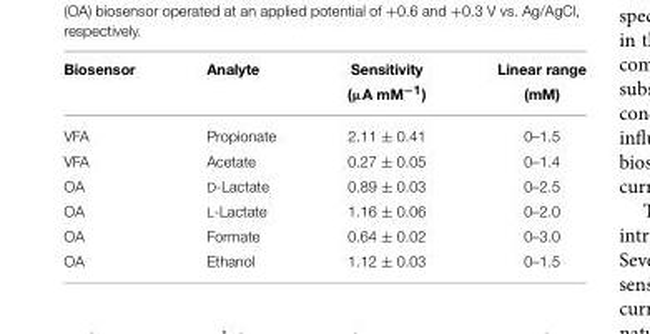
<table><thead><tr><td rowspan="2">Biosensor</td><td rowspan="2">Analyte</td><td rowspan="2">Sensitivity (µA mM<sup>−1</sup>)</td><td rowspan="2">Linear range (mM)</td></tr><tr></tr></thead><tbody><tr><td>VFA</td><td>Propionate</td><td>2.11 ± 0.41</td><td>0–1.5</td></tr><tr><td>VFA</td><td>Acetate</td><td>0.27 ± 0.05</td><td>0–1.4</td></tr><tr><td>OA</td><td>D-Lactate</td><td>0.89 ± 0.03</td><td>0–2.5</td></tr><tr><td>OA</td><td>L-Lactate</td><td>1.16 ± 0.06</td><td>0–2.0</td></tr><tr><td>OA</td><td>Formate</td><td>0.64 ± 0.02</td><td>0–3.0</td></tr><tr><td>OA</td><td>Ethanol</td><td>1.12 ± 0.03</td><td>0–1.5</td></tr></tbody></table>